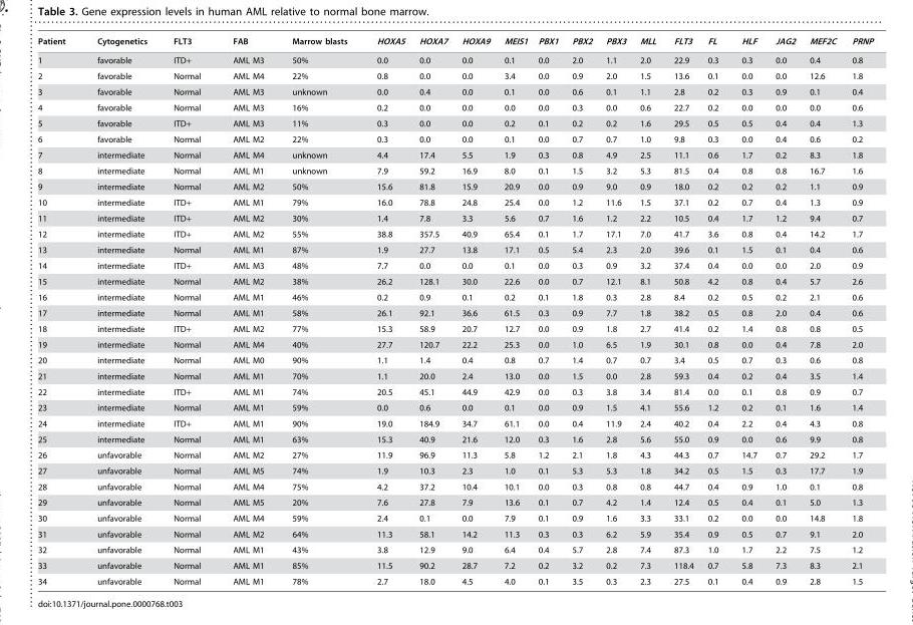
<table><thead><tr><td>Patient</td><td>Cytogenetics</td><td>FLT3</td><td>FAB</td><td>Marrow blasts</td><td>HOXA5</td><td>HOXA7</td><td>HOXA9</td><td>MEIS1</td><td>PBX1</td><td>PBX2</td><td>PBX3</td><td>MLL</td><td>FLT3</td><td>FL</td><td>HLF</td><td>JAG2</td><td>MEF2C</td><td>PRNP</td></tr></thead><tbody><tr><td>1</td><td>favorable</td><td>ITD+</td><td>AML M3</td><td>50%</td><td>0.0</td><td>0.0</td><td>0.0</td><td>0.1</td><td>0.0</td><td>2.0</td><td>1.1</td><td>2.0</td><td>22.9</td><td>0.3</td><td>0.3</td><td>0.0</td><td>0.4</td><td>0.8</td></tr><tr><td>2</td><td>favorable</td><td>Normal</td><td>AML M4</td><td>22%</td><td>0.8</td><td>0.0</td><td>0.0</td><td>3.4</td><td>0.0</td><td>0.9</td><td>2.0</td><td>1.5</td><td>13.6</td><td>0.1</td><td>0.0</td><td>0.0</td><td>12.6</td><td>1.8</td></tr><tr><td>3</td><td>favorable</td><td>Normal</td><td>AML M3</td><td>unknown</td><td>0.0</td><td>0.4</td><td>0.0</td><td>0.1</td><td>0.0</td><td>0.6</td><td>0.1</td><td>1.1</td><td>2.8</td><td>0.2</td><td>0.3</td><td>0.9</td><td>0.1</td><td>0.4</td></tr><tr><td>4</td><td>favorable</td><td>Normal</td><td>AML M3</td><td>16%</td><td>0.2</td><td>0.0</td><td>0.0</td><td>0.0</td><td>0.0</td><td>0.3</td><td>0.0</td><td>0.6</td><td>22.7</td><td>0.2</td><td>0.0</td><td>0.0</td><td>0.0</td><td>0.6</td></tr><tr><td>5</td><td>favorable</td><td>ITD+</td><td>AML M3</td><td>11%</td><td>0.3</td><td>0.0</td><td>0.0</td><td>0.2</td><td>0.1</td><td>0.2</td><td>0.2</td><td>1.6</td><td>29.5</td><td>0.5</td><td>0.5</td><td>0.4</td><td>0.4</td><td>1.3</td></tr><tr><td>6</td><td>favorable</td><td>Normal</td><td>AML M2</td><td>22%</td><td>0.3</td><td>0.0</td><td>0.0</td><td>0.1</td><td>0.0</td><td>0.7</td><td>0.7</td><td>1.0</td><td>9.8</td><td>0.3</td><td>0.0</td><td>0.4</td><td>0.6</td><td>0.2</td></tr><tr><td>7</td><td>intermediate</td><td>Normal</td><td>AML M4</td><td>unknown</td><td>4.4</td><td>17.4</td><td>5.5</td><td>1.9</td><td>0.3</td><td>0.8</td><td>4.9</td><td>2.5</td><td>11.1</td><td>0.6</td><td>1.7</td><td>0.2</td><td>8.3</td><td>1.8</td></tr><tr><td>8</td><td>intermediate</td><td>Normal</td><td>AML M1</td><td>unknown</td><td>7.9</td><td>59.2</td><td>16.9</td><td>8.0</td><td>0.1</td><td>1.5</td><td>3.2</td><td>5.3</td><td>81.5</td><td>0.4</td><td>0.8</td><td>0.8</td><td>16.7</td><td>1.6</td></tr><tr><td>9</td><td>intermediate</td><td>Normal</td><td>AML M2</td><td>50%</td><td>15.6</td><td>81.8</td><td>15.9</td><td>20.9</td><td>0.0</td><td>0.9</td><td>9.0</td><td>0.9</td><td>18.0</td><td>0.2</td><td>0.2</td><td>0.2</td><td>1.1</td><td>0.9</td></tr><tr><td>10</td><td>intermediate</td><td>ITD+</td><td>AML M1</td><td>79%</td><td>16.0</td><td>78.8</td><td>24.8</td><td>25.4</td><td>0.0</td><td>1.2</td><td>11.6</td><td>1.5</td><td>37.1</td><td>0.2</td><td>0.7</td><td>0.4</td><td>1.3</td><td>0.9</td></tr><tr><td>11</td><td>intermediate</td><td>ITD+</td><td>AML M2</td><td>30%</td><td>1.4</td><td>7.8</td><td>3.3</td><td>5.6</td><td>0.7</td><td>1.6</td><td>1.2</td><td>2.2</td><td>10.5</td><td>0.4</td><td>1.7</td><td>1.2</td><td>9.4</td><td>0.7</td></tr><tr><td>12</td><td>intermediate</td><td>ITD+</td><td>AML M2</td><td>55%</td><td>38.8</td><td>357.5</td><td>40.9</td><td>65.4</td><td>0.1</td><td>1.7</td><td>17.1</td><td>7.0</td><td>41.7</td><td>3.6</td><td>0.8</td><td>0.4</td><td>14.2</td><td>1.7</td></tr><tr><td>13</td><td>intermediate</td><td>Normal</td><td>AML M1</td><td>87%</td><td>1.9</td><td>27.7</td><td>13.8</td><td>17.1</td><td>0.5</td><td>5.4</td><td>2.3</td><td>2.0</td><td>39.6</td><td>0.1</td><td>1.5</td><td>0.1</td><td>0.4</td><td>0.6</td></tr><tr><td>14</td><td>intermediate</td><td>ITD+</td><td>AML M3</td><td>48%</td><td>7.7</td><td>0.0</td><td>0.0</td><td>0.1</td><td>0.0</td><td>0.3</td><td>0.9</td><td>3.2</td><td>37.4</td><td>0.4</td><td>0.0</td><td>0.0</td><td>2.0</td><td>0.9</td></tr><tr><td>15</td><td>intermediate</td><td>Normal</td><td>AML M2</td><td>38%</td><td>26.2</td><td>128.1</td><td>30.0</td><td>22.6</td><td>0.0</td><td>0.7</td><td>12.1</td><td>8.1</td><td>50.8</td><td>4.2</td><td>0.8</td><td>0.4</td><td>5.7</td><td>2.6</td></tr><tr><td>16</td><td>intermediate</td><td>Normal</td><td>AML M1</td><td>46%</td><td>0.2</td><td>0.9</td><td>0.1</td><td>0.2</td><td>0.1</td><td>1.8</td><td>0.3</td><td>2.8</td><td>8.4</td><td>0.2</td><td>0.5</td><td>0.2</td><td>2.1</td><td>0.6</td></tr><tr><td>17</td><td>intermediate</td><td>Normal</td><td>AML M1</td><td>58%</td><td>26.1</td><td>92.1</td><td>36.6</td><td>61.5</td><td>0.3</td><td>0.9</td><td>7.7</td><td>1.8</td><td>38.2</td><td>0.5</td><td>0.8</td><td>2.0</td><td>0.4</td><td>0.6</td></tr><tr><td>18</td><td>intermediate</td><td>ITD+</td><td>AML M2</td><td>77%</td><td>15.3</td><td>58.9</td><td>20.7</td><td>12.7</td><td>0.0</td><td>0.9</td><td>1.8</td><td>2.7</td><td>41.4</td><td>0.2</td><td>1.4</td><td>0.8</td><td>0.8</td><td>0.5</td></tr><tr><td>19</td><td>intermediate</td><td>Normal</td><td>AML M4</td><td>40%</td><td>27.7</td><td>120.7</td><td>22.2</td><td>25.3</td><td>0.0</td><td>1.0</td><td>6.5</td><td>1.9</td><td>30.1</td><td>0.8</td><td>0.0</td><td>0.4</td><td>7.8</td><td>2.0</td></tr><tr><td>20</td><td>intermediate</td><td>Normal</td><td>AML M0</td><td>90%</td><td>1.1</td><td>1.4</td><td>0.4</td><td>0.8</td><td>0.7</td><td>1.4</td><td>0.7</td><td>0.7</td><td>3.4</td><td>0.5</td><td>0.7</td><td>0.3</td><td>0.6</td><td>0.8</td></tr><tr><td>21</td><td>intermediate</td><td>Normal</td><td>AML M1</td><td>70%</td><td>1.1</td><td>20.0</td><td>2.4</td><td>13.0</td><td>0.0</td><td>1.5</td><td>0.0</td><td>2.8</td><td>59.3</td><td>0.4</td><td>0.2</td><td>0.4</td><td>3.5</td><td>1.4</td></tr><tr><td>22</td><td>intermediate</td><td>ITD+</td><td>AML M1</td><td>74%</td><td>20.5</td><td>45.1</td><td>44.9</td><td>42.9</td><td>0.0</td><td>0.3</td><td>3.8</td><td>3.4</td><td>81.4</td><td>0.0</td><td>0.1</td><td>0.8</td><td>0.9</td><td>0.7</td></tr><tr><td>23</td><td>intermediate</td><td>Normal</td><td>AML M1</td><td>59%</td><td>0.0</td><td>0.6</td><td>0.0</td><td>0.1</td><td>0.0</td><td>0.9</td><td>1.5</td><td>4.1</td><td>55.6</td><td>1.2</td><td>0.2</td><td>0.1</td><td>1.6</td><td>1.4</td></tr><tr><td>24</td><td>intermediate</td><td>ITD+</td><td>AML M1</td><td>90%</td><td>19.0</td><td>184.9</td><td>34.7</td><td>61.1</td><td>0.0</td><td>0.4</td><td>11.9</td><td>2.4</td><td>40.2</td><td>0.4</td><td>2.2</td><td>0.4</td><td>4.3</td><td>0.8</td></tr><tr><td>25</td><td>intermediate</td><td>Normal</td><td>AML M1</td><td>63%</td><td>15.3</td><td>40.9</td><td>21.6</td><td>12.0</td><td>0.3</td><td>1.6</td><td>2.8</td><td>5.6</td><td>55.0</td><td>0.9</td><td>0.0</td><td>0.6</td><td>9.9</td><td>0.8</td></tr><tr><td>26</td><td>unfavorable</td><td>Normal</td><td>AML M2</td><td>27%</td><td>11.9</td><td>96.9</td><td>11.3</td><td>5.8</td><td>1.2</td><td>2.1</td><td>1.8</td><td>4.3</td><td>44.3</td><td>0.7</td><td>14.7</td><td>0.7</td><td>29.2</td><td>1.7</td></tr><tr><td>27</td><td>unfavorable</td><td>Normal</td><td>AML M5</td><td>74%</td><td>1.9</td><td>10.3</td><td>2.3</td><td>1.0</td><td>0.1</td><td>5.3</td><td>5.3</td><td>1.8</td><td>34.2</td><td>0.5</td><td>1.5</td><td>0.3</td><td>17.7</td><td>1.9</td></tr><tr><td>28</td><td>unfavorable</td><td>Normal</td><td>AML M4</td><td>75%</td><td>4.2</td><td>37.2</td><td>10.4</td><td>10.1</td><td>0.0</td><td>0.3</td><td>0.8</td><td>0.8</td><td>44.7</td><td>0.4</td><td>0.9</td><td>1.0</td><td>0.1</td><td>0.8</td></tr><tr><td>29</td><td>unfavorable</td><td>Normal</td><td>AML M5</td><td>20%</td><td>7.6</td><td>27.8</td><td>7.9</td><td>13.6</td><td>0.1</td><td>0.7</td><td>4.2</td><td>1.4</td><td>12.4</td><td>0.5</td><td>0.4</td><td>0.1</td><td>5.0</td><td>1.3</td></tr><tr><td>30</td><td>unfavorable</td><td>Normal</td><td>AML M4</td><td>59%</td><td>2.4</td><td>0.1</td><td>0.0</td><td>7.9</td><td>0.1</td><td>0.9</td><td>1.6</td><td>3.3</td><td>33.1</td><td>0.2</td><td>0.0</td><td>0.0</td><td>14.8</td><td>1.8</td></tr><tr><td>31</td><td>unfavorable</td><td>Normal</td><td>AML M2</td><td>64%</td><td>11.3</td><td>58.1</td><td>14.2</td><td>11.3</td><td>0.3</td><td>0.3</td><td>6.2</td><td>5.9</td><td>35.4</td><td>0.9</td><td>0.5</td><td>0.7</td><td>9.1</td><td>2.0</td></tr><tr><td>32</td><td>unfavorable</td><td>Normal</td><td>AML M1</td><td>43%</td><td>3.8</td><td>12.9</td><td>9.0</td><td>6.4</td><td>0.4</td><td>5.7</td><td>2.8</td><td>7.4</td><td>87.3</td><td>1.0</td><td>1.7</td><td>2.2</td><td>7.5</td><td>1.2</td></tr><tr><td>33</td><td>unfavorable</td><td>Normal</td><td>AML M1</td><td>85%</td><td>11.5</td><td>90.2</td><td>28.7</td><td>7.2</td><td>0.2</td><td>3.2</td><td>0.2</td><td>7.3</td><td>118.4</td><td>0.7</td><td>5.8</td><td>7.3</td><td>8.3</td><td>2.1</td></tr><tr><td>34</td><td>unfavorable</td><td>Normal</td><td>AML M1</td><td>78%</td><td>2.7</td><td>18.0</td><td>4.5</td><td>4.0</td><td>0.1</td><td>3.5</td><td>0.3</td><td>2.3</td><td>27.5</td><td>0.1</td><td>0.4</td><td>0.9</td><td>2.8</td><td>1.5</td></tr></tbody></table>